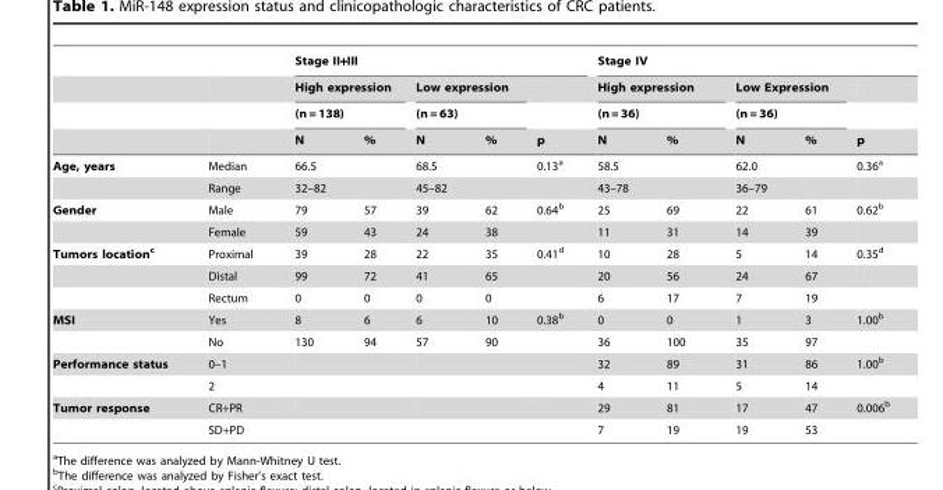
<table><thead><tr><td rowspan="4"></td><td rowspan="4"></td><td colspan="5">Stage II+III</td><td colspan="5">Stage IV</td></tr><tr><td rowspan="2" colspan="2">High expression (n = 138)</td><td rowspan="2" colspan="2">Low expression (n = 63)</td><td rowspan="3">p</td><td rowspan="2" colspan="2">High expression (n = 36)</td><td rowspan="2" colspan="2">Low Expression (n = 36)</td><td rowspan="3">p</td></tr><tr></tr><tr><td>N</td><td>%</td><td>N</td><td>%</td><td>N</td><td>%</td><td>N</td><td>%</td></tr></thead><tbody><tr><td rowspan="2">Age, years</td><td>Median</td><td>66.5</td><td></td><td>68.5</td><td></td><td>0.13<sup>a</sup></td><td>58.5</td><td></td><td>62.0</td><td></td><td>0.36<sup>a</sup></td></tr><tr><td>Range</td><td>32–82</td><td></td><td>45–82</td><td></td><td></td><td>43–78</td><td></td><td>36–79</td><td></td><td></td></tr><tr><td rowspan="2">Gender</td><td>Male</td><td>79</td><td>57</td><td>39</td><td>62</td><td>0.64<sup>b</sup></td><td>25</td><td>69</td><td>22</td><td>61</td><td>0.62<sup>b</sup></td></tr><tr><td>Female</td><td>59</td><td>43</td><td>24</td><td>38</td><td></td><td>11</td><td>31</td><td>14</td><td>39</td><td></td></tr><tr><td rowspan="3">Tumors locationc</td><td>Proximal</td><td>39</td><td>28</td><td>22</td><td>35</td><td>0.41<sup>d</sup></td><td>10</td><td>28</td><td>5</td><td>14</td><td>0.35<sup>d</sup></td></tr><tr><td>Distal</td><td>99</td><td>72</td><td>41</td><td>65</td><td></td><td>20</td><td>56</td><td>24</td><td>67</td><td></td></tr><tr><td>Rectum</td><td>0</td><td>0</td><td>0</td><td>0</td><td></td><td>6</td><td>17</td><td>7</td><td>19</td><td></td></tr><tr><td rowspan="2">MSI</td><td>Yes</td><td>8</td><td>6</td><td>6</td><td>10</td><td>0.38<sup>b</sup></td><td>0</td><td>0</td><td>1</td><td>3</td><td>1.00<sup>b</sup></td></tr><tr><td>No</td><td>130</td><td>94</td><td>57</td><td>90</td><td></td><td>36</td><td>100</td><td>35</td><td>97</td><td></td></tr><tr><td rowspan="2">Performance status</td><td>0–1</td><td></td><td></td><td></td><td></td><td></td><td>32</td><td>89</td><td>31</td><td>86</td><td>1.00<sup>b</sup></td></tr><tr><td>2</td><td></td><td></td><td></td><td></td><td></td><td>4</td><td>11</td><td>5</td><td>14</td><td></td></tr><tr><td rowspan="2">Tumor response</td><td>CR+PR</td><td></td><td></td><td></td><td></td><td></td><td>29</td><td>81</td><td>17</td><td>47</td><td>0.006<sup>b</sup></td></tr><tr><td>SD+PD</td><td></td><td></td><td></td><td></td><td></td><td>7</td><td>19</td><td>19</td><td>53</td><td></td></tr></tbody></table>